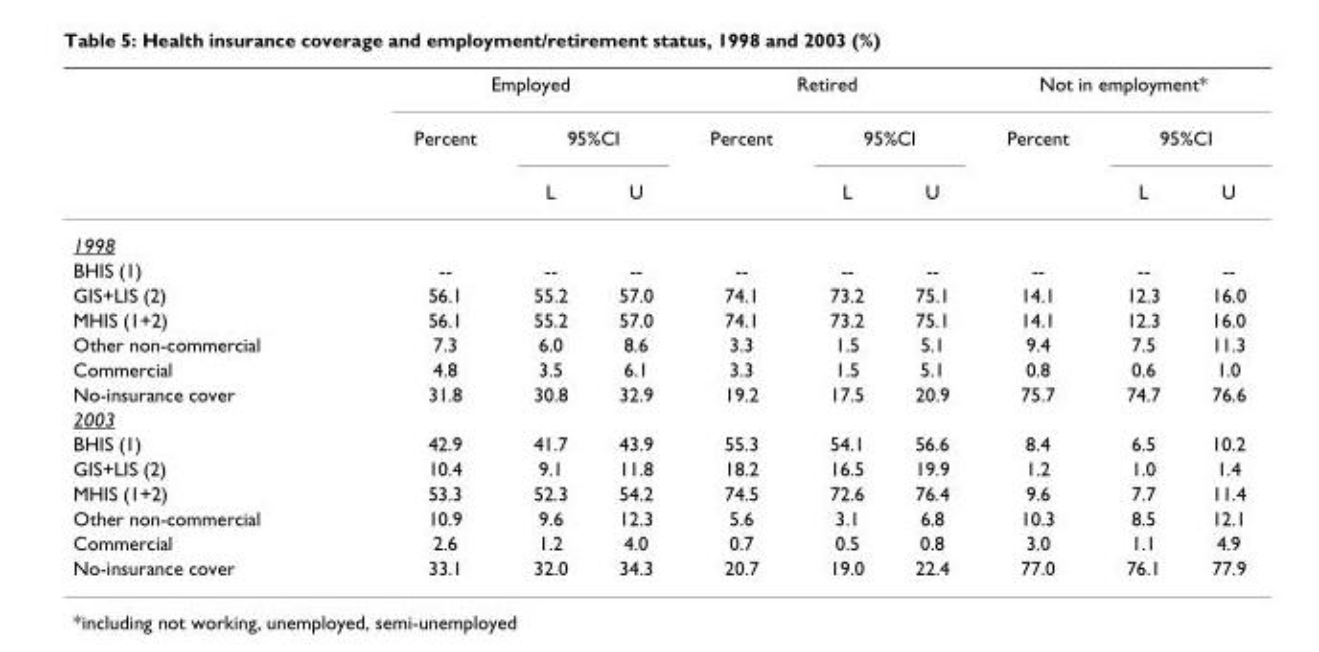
<table><thead><tr><td rowspan="3"></td><td colspan="3">Employed</td><td colspan="3">Retired</td><td colspan="3">Not in employment*</td></tr><tr><td rowspan="2">Percent</td><td colspan="2">95%CI</td><td rowspan="2">Percent</td><td colspan="2">95%CI</td><td rowspan="2">Percent</td><td colspan="2">95%CI</td></tr><tr><td>L</td><td>U</td><td>L</td><td>U</td><td>L</td><td>U</td></tr></thead><tbody><tr><td colspan="10">1998</td></tr><tr><td>BHIS (1)</td><td>--</td><td>--</td><td>--</td><td>--</td><td>--</td><td>--</td><td>--</td><td>--</td><td>--</td></tr><tr><td>GIS+LIS (2)</td><td>56.1</td><td>55.2</td><td>57.0</td><td>74.1</td><td>73.2</td><td>75.1</td><td>14.1</td><td>12.3</td><td>16.0</td></tr><tr><td>MHIS (1+2)</td><td>56.1</td><td>55.2</td><td>57.0</td><td>74.1</td><td>73.2</td><td>75.1</td><td>14.1</td><td>12.3</td><td>16.0</td></tr><tr><td>Other non-commercial</td><td>7.3</td><td>6.0</td><td>8.6</td><td>3.3</td><td>1.5</td><td>5.1</td><td>9.4</td><td>7.5</td><td>11.3</td></tr><tr><td>Commercial</td><td>4.8</td><td>3.5</td><td>6.1</td><td>3.3</td><td>1.5</td><td>5.1</td><td>0.8</td><td>0.6</td><td>1.0</td></tr><tr><td>No-insurance cover</td><td>31.8</td><td>30.8</td><td>32.9</td><td>19.2</td><td>17.5</td><td>20.9</td><td>75.7</td><td>74.7</td><td>76.6</td></tr><tr><td colspan="10">2003</td></tr><tr><td>BHIS (1)</td><td>42.9</td><td>41.7</td><td>43.9</td><td>55.3</td><td>54.1</td><td>56.6</td><td>8.4</td><td>6.5</td><td>10.2</td></tr><tr><td>GIS+LIS (2)</td><td>10.4</td><td>9.1</td><td>11.8</td><td>18.2</td><td>16.5</td><td>19.9</td><td>1.2</td><td>1.0</td><td>1.4</td></tr><tr><td>MHIS (1+2)</td><td>53.3</td><td>52.3</td><td>54.2</td><td>74.5</td><td>72.6</td><td>76.4</td><td>9.6</td><td>7.7</td><td>11.4</td></tr><tr><td>Other non-commercial</td><td>10.9</td><td>9.6</td><td>12.3</td><td>5.6</td><td>3.1</td><td>6.8</td><td>10.3</td><td>8.5</td><td>12.1</td></tr><tr><td>Commercial</td><td>2.6</td><td>1.2</td><td>4.0</td><td>0.7</td><td>0.5</td><td>0.8</td><td>3.0</td><td>1.1</td><td>4.9</td></tr><tr><td>No-insurance cover</td><td>33.1</td><td>32.0</td><td>34.3</td><td>20.7</td><td>19.0</td><td>22.4</td><td>77.0</td><td>76.1</td><td>77.9</td></tr></tbody></table>